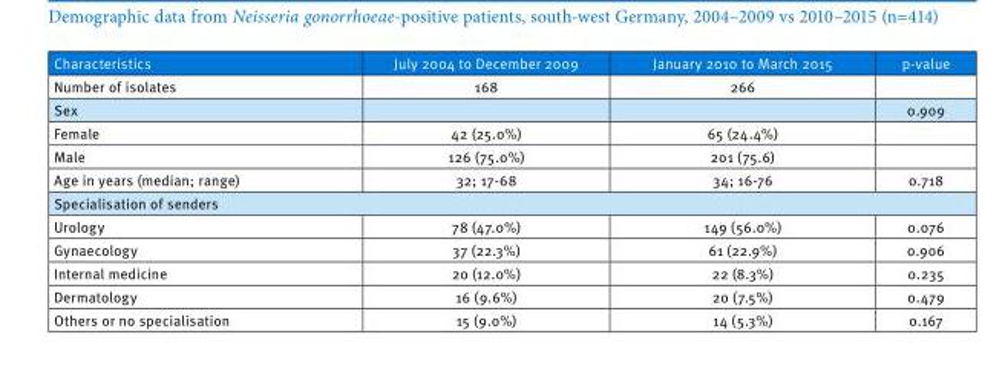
<table><thead><tr><td>Characteristics</td><td>July 2004 to December 2009</td><td>January 2010 to March 2015</td><td>p-value</td></tr></thead><tbody><tr><td>Number of isolates</td><td>168</td><td>266</td><td></td></tr><tr><td>Sex</td><td></td><td></td><td>0.909</td></tr><tr><td>Female</td><td>42 (25.0%)</td><td>65 (24.4%)</td><td></td></tr><tr><td>Male</td><td>126 (75.0%)</td><td>201 (75.6)</td><td></td></tr><tr><td>Age in years (median; range)</td><td>32; 17-68</td><td>34; 16-76</td><td>0.718</td></tr><tr><td colspan="4">Specialisation of senders</td></tr><tr><td>Urology</td><td>78 (47.0%)</td><td>149 (56.0%)</td><td>0.076</td></tr><tr><td>Gynaecology</td><td>37 (22.3%)</td><td>61 (22.9%)</td><td>0.906</td></tr><tr><td>Internal medicine</td><td>20 (12.0%)</td><td>22 (8.3%)</td><td>0.235</td></tr><tr><td>Dermatology</td><td>16 (9.6%)</td><td>20 (7.5%)</td><td>0.479</td></tr><tr><td>Others or no specialisation</td><td>15 (9.0%)</td><td>14 (5.3%)</td><td>0.167</td></tr></tbody></table>